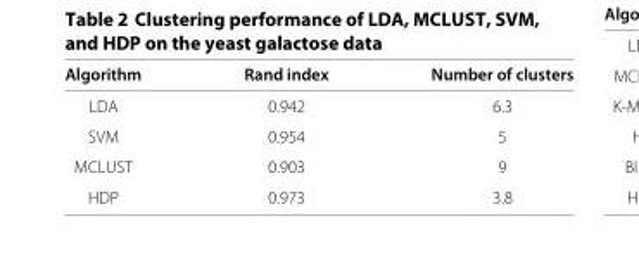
<table><thead><tr><td>Algorithm</td><td>Rand index</td><td>Number of clusters</td></tr></thead><tbody><tr><td>LDA</td><td>0.942</td><td>6.3</td></tr><tr><td>SVM</td><td>0.954</td><td>5</td></tr><tr><td>MCLUST</td><td>0.903</td><td>9</td></tr><tr><td>HDP</td><td>0.973</td><td>3.8</td></tr></tbody></table>